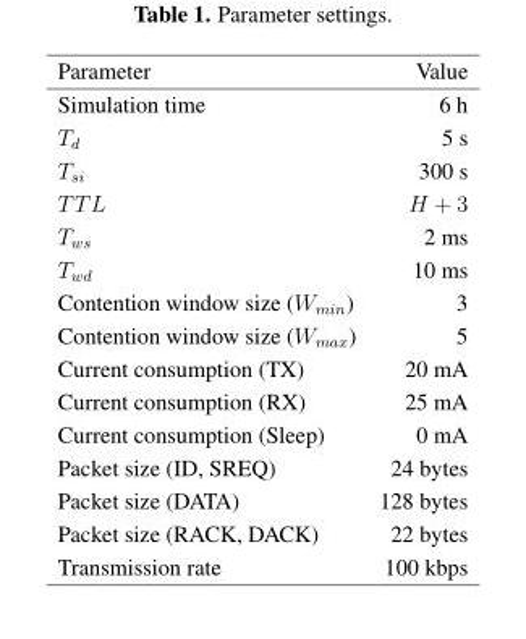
<table><thead><tr><td>Parameter</td><td>Value</td></tr></thead><tbody><tr><td>Simulation time</td><td>6 h</td></tr><tr><td>T<sub>d</sub></td><td>5 s</td></tr><tr><td>T<sub>si</sub></td><td>300 s</td></tr><tr><td>TTL</td><td>H + 3</td></tr><tr><td>T<sub>ws</sub></td><td>2 ms</td></tr><tr><td>T<sub>wd</sub></td><td>10 ms</td></tr><tr><td>Contention window size (W<sub>min</sub>)</td><td>3</td></tr><tr><td>Contention window size (W<sub>max</sub>)</td><td>5</td></tr><tr><td>Current consumption (TX)</td><td>20 mA</td></tr><tr><td>Current consumption (RX)</td><td>25 mA</td></tr><tr><td>Current consumption (Sleep)</td><td>0 mA</td></tr><tr><td>Packet size (ID, SREQ)</td><td>24 bytes</td></tr><tr><td>Packet size (DATA)</td><td>128 bytes</td></tr><tr><td>Packet size (RACK, DACK)</td><td>22 bytes</td></tr><tr><td>Transmission rate</td><td>100 kbps</td></tr></tbody></table>